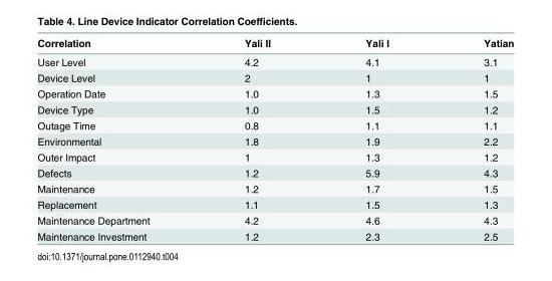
<table><thead><tr><td>Correlation</td><td>Yali II</td><td>Yali I</td><td>Yatian</td></tr></thead><tbody><tr><td>User Level</td><td>4.2</td><td>4.1</td><td>3.1</td></tr><tr><td>Device Level</td><td>2</td><td>1</td><td>1</td></tr><tr><td>Operation Date</td><td>1.0</td><td>1.3</td><td>1.5</td></tr><tr><td>Device Type</td><td>1.0</td><td>1.5</td><td>1.2</td></tr><tr><td>Outage Time</td><td>0.8</td><td>1.1</td><td>1.1</td></tr><tr><td>Environmental</td><td>1.8</td><td>1.9</td><td>2.2</td></tr><tr><td>Outer Impact</td><td>1</td><td>1.3</td><td>1.2</td></tr><tr><td>Defects</td><td>1.2</td><td>5.9</td><td>4.3</td></tr><tr><td>Maintenance</td><td>1.2</td><td>1.7</td><td>1.5</td></tr><tr><td>Replacement</td><td>1.1</td><td>1.5</td><td>1.3</td></tr><tr><td>Maintenance Department</td><td>4.2</td><td>4.6</td><td>4.3</td></tr><tr><td>Maintenance Investment</td><td>1.2</td><td>2.3</td><td>2.5</td></tr></tbody></table>